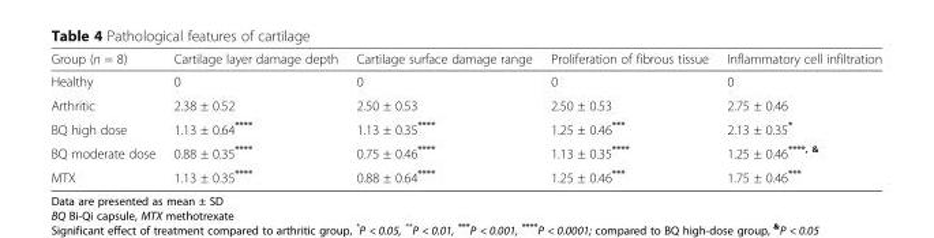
<table><thead><tr><td>Group (n = 8)</td><td>Cartilage layer damage depth</td><td>Cartilage surface damage range</td><td>Proliferation of fibrous tissue</td><td>Inflammatory cell infiltration</td></tr></thead><tbody><tr><td>Healthy</td><td>0</td><td>0</td><td>0</td><td>0</td></tr><tr><td>Arthritic</td><td>2.38 ± 0.52</td><td>2.50 ± 0.53</td><td>2.50 ± 0.53</td><td>2.75 ± 0.46</td></tr><tr><td>BQ high dose</td><td>1.13 ± 0.64****</td><td>1.13 ± 0.35****</td><td>1.25 ± 0.46***</td><td>2.13 ± 0.35*</td></tr><tr><td>BQ moderate dose</td><td>0.88 ± 0.35****</td><td>0.75 ± 0.46****</td><td>1.13 ± 0.35****</td><td>1.25 ± 0.46<sup>****, &amp;</sup></td></tr><tr><td>MTX</td><td>1.13 ± 0.35****</td><td>0.88 ± 0.64****</td><td>1.25 ± 0.46***</td><td>1.75 ± 0.46***</td></tr></tbody></table>